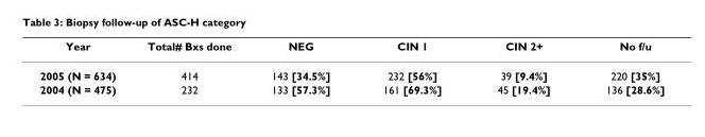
<table><thead><tr><td>Year</td><td>Total# Bxs done</td><td>NEG</td><td>CIN 1</td><td>CIN 2+</td><td>No f/u</td></tr></thead><tbody><tr><td>2005 (N = 634)</td><td>414</td><td>143 [34.5%]</td><td>232 [56%]</td><td>39 [9.4%]</td><td>220 [35%]</td></tr><tr><td>2004 (N = 475)</td><td>232</td><td>133 [57.3%]</td><td>161 [69.3%]</td><td>45 [19.4%]</td><td>136 [28.6%]</td></tr></tbody></table>